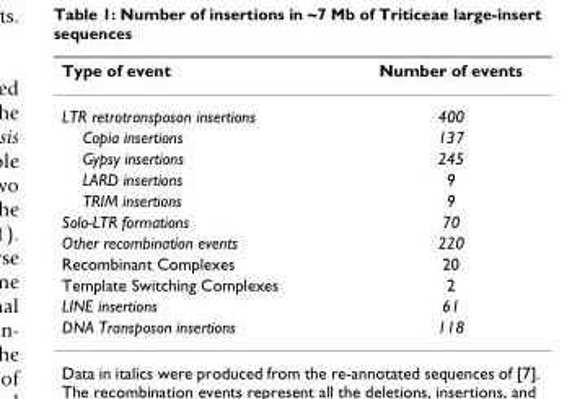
<table><thead><tr><td>Type of event</td><td>Number of events</td></tr></thead><tbody><tr><td>LTR retrotransposon insertions</td><td>400</td></tr><tr><td>Copia insertions</td><td>137</td></tr><tr><td>Gypsy insertions</td><td>245</td></tr><tr><td>LARD insertions</td><td>9</td></tr><tr><td>TRIM insertions</td><td>9</td></tr><tr><td>Solo-LTR formations</td><td>70</td></tr><tr><td>Other recombination events</td><td>220</td></tr><tr><td>Recombinant Complexes</td><td>20</td></tr><tr><td>Template Switching Complexes</td><td>2</td></tr><tr><td>LINE insertions</td><td>61</td></tr><tr><td>DNA Transposon insertions</td><td>118</td></tr></tbody></table>